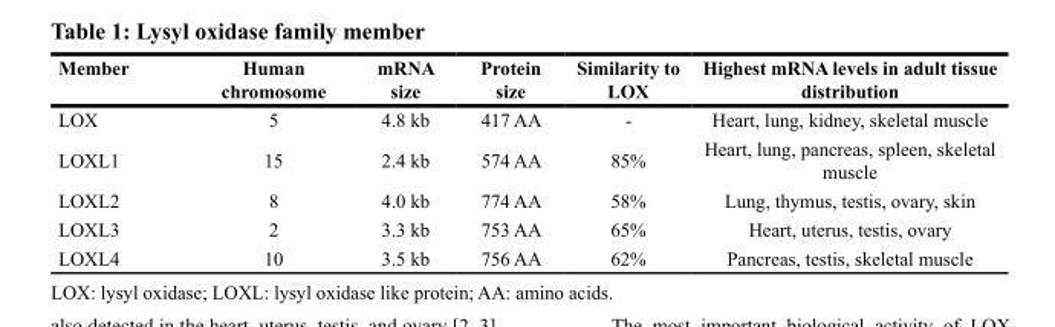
<table><thead><tr><td>Member</td><td>Human chromosome</td><td>mRNA size</td><td>Protein size</td><td>Similarity to LOX</td><td>Highest mRNA levels in adult tissue distribution</td></tr></thead><tbody><tr><td>LOX</td><td>5</td><td>4.8 kb</td><td>417 AA</td><td>-</td><td>Heart, lung, kidney, skeletal muscle</td></tr><tr><td>LOXL1</td><td>15</td><td>2.4 kb</td><td>574 AA</td><td>85%</td><td>Heart, lung, pancreas, spleen, skeletal muscle</td></tr><tr><td>LOXL2</td><td>8</td><td>4.0 kb</td><td>774 AA</td><td>58%</td><td>Lung, thymus, testis, ovary, skin</td></tr><tr><td>LOXL3</td><td>2</td><td>3.3 kb</td><td>753 AA</td><td>65%</td><td>Heart, uterus, testis, ovary</td></tr><tr><td>LOXL4</td><td>10</td><td>3.5 kb</td><td>756 AA</td><td>62%</td><td>Pancreas, testis, skeletal muscle</td></tr></tbody></table>